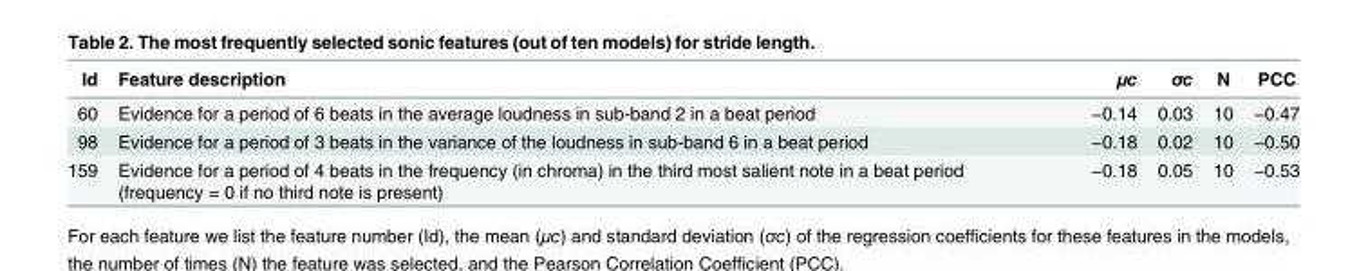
<table><thead><tr><td>Id</td><td>Feature description</td><td>μc</td><td>σc</td><td>N</td><td>PCC</td></tr></thead><tbody><tr><td>60</td><td>Evidence for a period of 6 beats in the average loudness in sub-band 2 in a beat period</td><td>−0.14</td><td>0.03</td><td>10</td><td>−0.47</td></tr><tr><td>98</td><td>Evidence for a period of 3 beats in the variance of the loudness in sub-band 6 in a beat period</td><td>−0.18</td><td>0.02</td><td>10</td><td>−0.50</td></tr><tr><td>159</td><td>Evidence for a period of 4 beats in the frequency (in chroma) in the third most salient note in a beat period (frequency = 0 if no third note is present)</td><td>−0.18</td><td>0.05</td><td>10</td><td>−0.53</td></tr></tbody></table>